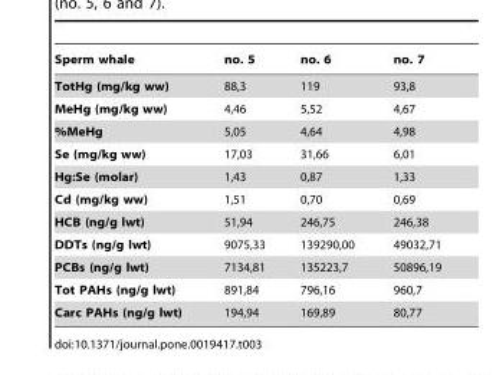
<table><thead><tr><td>Sperm whale</td><td>no. 5</td><td>no. 6</td><td>no. 7</td></tr></thead><tbody><tr><td>TotHg (mg/kg ww)</td><td>88,3</td><td>119</td><td>93,8</td></tr><tr><td>MeHg (mg/kg ww)</td><td>4,46</td><td>5,52</td><td>4,67</td></tr><tr><td>%MeHg</td><td>5,05</td><td>4,64</td><td>4,98</td></tr><tr><td>Se (mg/kg ww)</td><td>17,03</td><td>31,66</td><td>6,01</td></tr><tr><td>Hg:Se (molar)</td><td>1,43</td><td>0,87</td><td>1,33</td></tr><tr><td>Cd (mg/kg ww)</td><td>1,51</td><td>0,70</td><td>0,69</td></tr><tr><td>HCB (ng/g lwt)</td><td>51,94</td><td>246,75</td><td>246,38</td></tr><tr><td>DDTs (ng/g lwt)</td><td>9075,33</td><td>139290,00</td><td>49032,71</td></tr><tr><td>PCBs (ng/g lwt)</td><td>7134,81</td><td>135223,7</td><td>50896,19</td></tr><tr><td>Tot PAHs (ng/g lwt)</td><td>891,84</td><td>796,16</td><td>960,7</td></tr><tr><td>Carc PAHs (ng/g lwt)</td><td>194,94</td><td>169,89</td><td>80,77</td></tr></tbody></table>